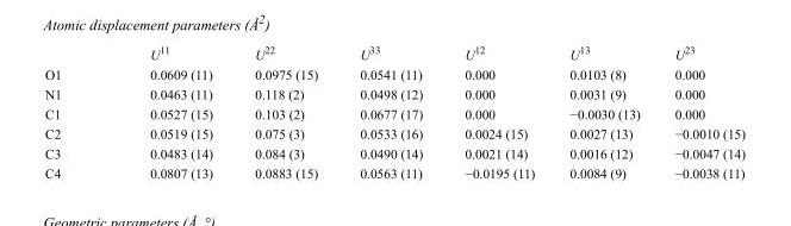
<table><thead><tr><td></td><td>U<sup>11</sup></td><td>U<sup>22</sup></td><td>U<sup>33</sup></td><td>U<sup>12</sup></td><td>U<sup>13</sup></td><td>U<sup>23</sup></td></tr></thead><tbody><tr><td>O1</td><td>0.0609 (11)</td><td>0.0975 (15)</td><td>0.0541 (11)</td><td>0.000</td><td>0.0103 (8)</td><td>0.000</td></tr><tr><td>N1</td><td>0.0463 (11)</td><td>0.118 (2)</td><td>0.0498 (12)</td><td>0.000</td><td>0.0031 (9)</td><td>0.000</td></tr><tr><td>C1</td><td>0.0527 (15)</td><td>0.103 (2)</td><td>0.0677 (17)</td><td>0.000</td><td>−0.0030 (13)</td><td>0.000</td></tr><tr><td>C2</td><td>0.0519 (15)</td><td>0.075 (3)</td><td>0.0533 (16)</td><td>0.0024 (15)</td><td>0.0027 (13)</td><td>−0.0010 (15)</td></tr><tr><td>C3</td><td>0.0483 (14)</td><td>0.084 (3)</td><td>0.0490 (14)</td><td>0.0021 (14)</td><td>0.0016 (12)</td><td>−0.0047 (14)</td></tr><tr><td>C4</td><td>0.0807 (13)</td><td>0.0883 (15)</td><td>0.0563 (11)</td><td>−0.0195 (11)</td><td>0.0084 (9)</td><td>−0.0038 (11)</td></tr></tbody></table>